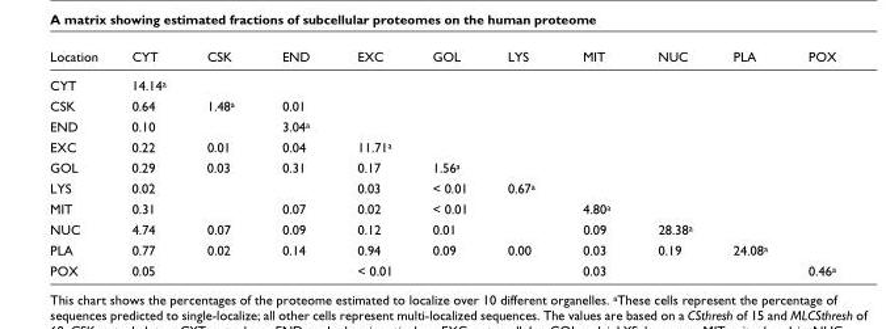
<table><thead><tr><td>Location</td><td>CYT</td><td>CSK</td><td>END</td><td>EXC</td><td>GOL</td><td>LYS</td><td>MIT</td><td>NUC</td><td>PLA</td><td>POX</td></tr></thead><tbody><tr><td>CYT</td><td>14.14<sup>a</sup></td><td></td><td></td><td></td><td></td><td></td><td></td><td></td><td></td><td></td></tr><tr><td>CSK</td><td>0.64</td><td>1.48<sup>a</sup></td><td>0.01</td><td></td><td></td><td></td><td></td><td></td><td></td><td></td></tr><tr><td>END</td><td>0.10</td><td></td><td>3.04<sup>a</sup></td><td></td><td></td><td></td><td></td><td></td><td></td><td></td></tr><tr><td>EXC</td><td>0.22</td><td>0.01</td><td>0.04</td><td>11.71<sup>a</sup></td><td></td><td></td><td></td><td></td><td></td><td></td></tr><tr><td>GOL</td><td>0.29</td><td>0.03</td><td>0.31</td><td>0.17</td><td>1.56<sup>a</sup></td><td></td><td></td><td></td><td></td><td></td></tr><tr><td>LYS</td><td>0.02</td><td></td><td></td><td>0.03</td><td>&lt; 0.01</td><td>0.67<sup>a</sup></td><td></td><td></td><td></td><td></td></tr><tr><td>MIT</td><td>0.31</td><td></td><td>0.07</td><td>0.02</td><td>&lt; 0.01</td><td></td><td>4.80<sup>a</sup></td><td></td><td></td><td></td></tr><tr><td>NUC</td><td>4.74</td><td>0.07</td><td>0.09</td><td>0.12</td><td>0.01</td><td></td><td>0.09</td><td>28.38<sup>a</sup></td><td></td><td></td></tr><tr><td>PLA</td><td>0.77</td><td>0.02</td><td>0.14</td><td>0.94</td><td>0.09</td><td>0.00</td><td>0.03</td><td>0.19</td><td>24.08<sup>a</sup></td><td></td></tr><tr><td>POX</td><td>0.05</td><td></td><td></td><td>&lt; 0.01</td><td></td><td></td><td>0.03</td><td></td><td></td><td>0.46<sup>a</sup></td></tr></tbody></table>